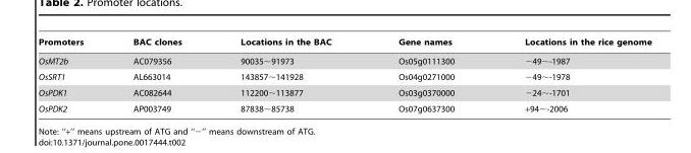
<table><thead><tr><td>Promoters</td><td>BAC clones</td><td>Locations in the BAC</td><td>Gene names</td><td>Locations in the rice genome</td></tr></thead><tbody><tr><td>OsMT2b</td><td>AC079356</td><td>90035∼91973</td><td>Os05g0111300</td><td>−49∼-1987</td></tr><tr><td>OsSRT1</td><td>AL663014</td><td>143857∼141928</td><td>Os04g0271000</td><td>−49∼-1978</td></tr><tr><td>OsPDK1</td><td>AC082644</td><td>112200∼113877</td><td>Os03g0370000</td><td>−24∼-1701</td></tr><tr><td>OsPDK2</td><td>AP003749</td><td>87838∼85738</td><td>Os07g0637300</td><td>+94∼-2006</td></tr></tbody></table>